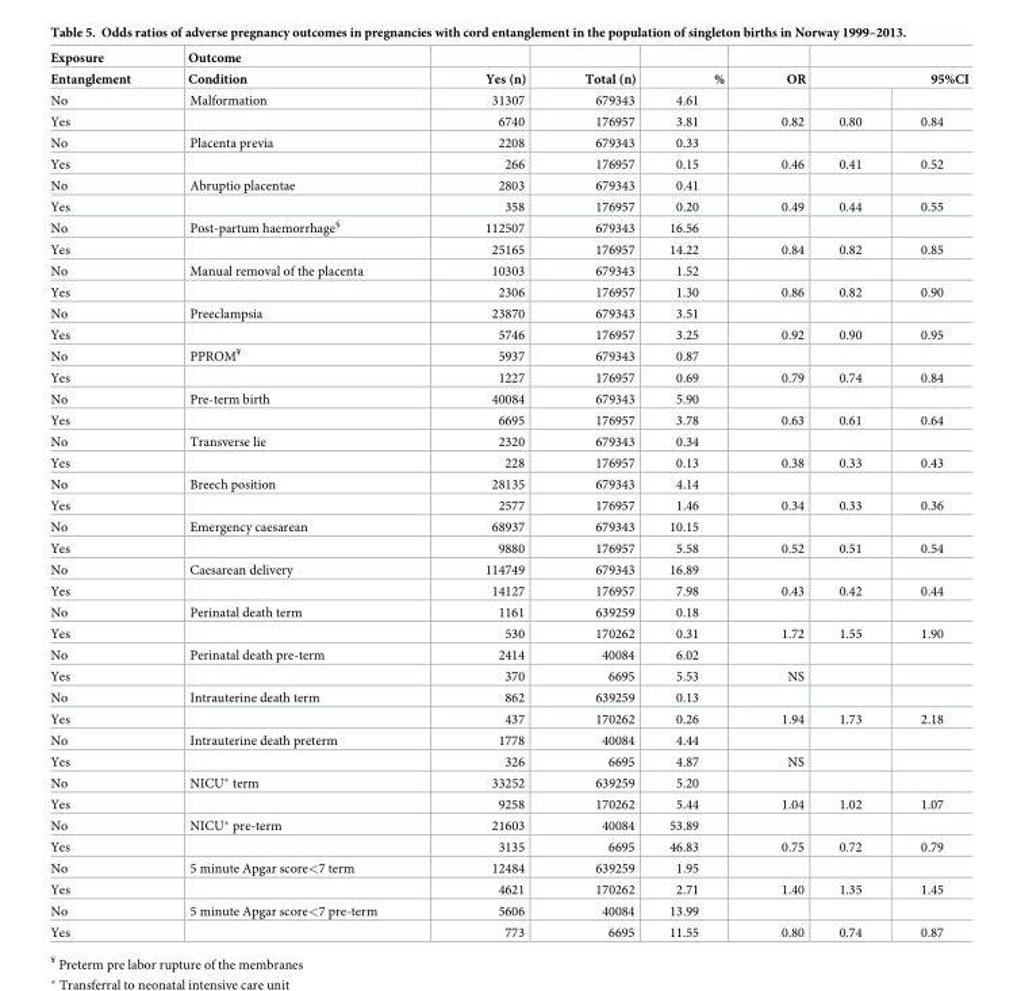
<table><thead><tr><td rowspan="2">Exposure Entanglement</td><td rowspan="2">Outcome Condition</td><td rowspan="2">Yes (n)</td><td rowspan="2">Total (n)</td><td rowspan="2">%</td><td rowspan="2">OR</td><td></td><td></td></tr><tr><td colspan="2">95%CI</td></tr></thead><tbody><tr><td>No</td><td>Malformation</td><td>31307</td><td>679343</td><td>4.61</td><td></td><td></td><td></td></tr><tr><td>Yes</td><td></td><td>6740</td><td>176957</td><td>3.81</td><td>0.82</td><td>0.80</td><td>0.84</td></tr><tr><td>No</td><td>Placenta previa</td><td>2208</td><td>679343</td><td>0.33</td><td></td><td></td><td></td></tr><tr><td>Yes</td><td></td><td>266</td><td>176957</td><td>0.15</td><td>0.46</td><td>0.41</td><td>0.52</td></tr><tr><td>No</td><td>Abruptio placentae</td><td>2803</td><td>679343</td><td>0.41</td><td></td><td></td><td></td></tr><tr><td>Yes</td><td></td><td>358</td><td>176957</td><td>0.20</td><td>0.49</td><td>0.44</td><td>0.55</td></tr><tr><td>No</td><td>Post-partum haemorrhage<sup>§</sup></td><td>112507</td><td>679343</td><td>16.56</td><td></td><td></td><td></td></tr><tr><td>Yes</td><td></td><td>25165</td><td>176957</td><td>14.22</td><td>0.84</td><td>0.82</td><td>0.85</td></tr><tr><td>No</td><td>Manual removal of the placenta</td><td>10303</td><td>679343</td><td>1.52</td><td></td><td></td><td></td></tr><tr><td>Yes</td><td></td><td>2306</td><td>176957</td><td>1.30</td><td>0.86</td><td>0.82</td><td>0.90</td></tr><tr><td>No</td><td>Preeclampsia</td><td>23870</td><td>679343</td><td>3.51</td><td></td><td></td><td></td></tr><tr><td>Yes</td><td></td><td>5746</td><td>176957</td><td>3.25</td><td>0.92</td><td>0.90</td><td>0.95</td></tr><tr><td>No</td><td>PPROM<sup>¥</sup></td><td>5937</td><td>679343</td><td>0.87</td><td></td><td></td><td></td></tr><tr><td>Yes</td><td></td><td>1227</td><td>176957</td><td>0.69</td><td>0.79</td><td>0.74</td><td>0.84</td></tr><tr><td>No</td><td>Pre-term birth</td><td>40084</td><td>679343</td><td>5.90</td><td></td><td></td><td></td></tr><tr><td>Yes</td><td></td><td>6695</td><td>176957</td><td>3.78</td><td>0.63</td><td>0.61</td><td>0.64</td></tr><tr><td>No</td><td>Transverse lie</td><td>2320</td><td>679343</td><td>0.34</td><td></td><td></td><td></td></tr><tr><td>Yes</td><td></td><td>228</td><td>176957</td><td>0.13</td><td>0.38</td><td>0.33</td><td>0.43</td></tr><tr><td>No</td><td>Breech position</td><td>28135</td><td>679343</td><td>4.14</td><td></td><td></td><td></td></tr><tr><td>Yes</td><td></td><td>2577</td><td>176957</td><td>1.46</td><td>0.34</td><td>0.33</td><td>0.36</td></tr><tr><td>No</td><td>Emergency caesarean</td><td>68937</td><td>679343</td><td>10.15</td><td></td><td></td><td></td></tr><tr><td>Yes</td><td></td><td>9880</td><td>176957</td><td>5.58</td><td>0.52</td><td>0.51</td><td>0.54</td></tr><tr><td>No</td><td>Caesarean delivery</td><td>114749</td><td>679343</td><td>16.89</td><td></td><td></td><td></td></tr><tr><td>Yes</td><td></td><td>14127</td><td>176957</td><td>7.98</td><td>0.43</td><td>0.42</td><td>0.44</td></tr><tr><td>No</td><td>Perinatal death term</td><td>1161</td><td>639259</td><td>0.18</td><td></td><td></td><td></td></tr><tr><td>Yes</td><td></td><td>530</td><td>170262</td><td>0.31</td><td>1.72</td><td>1.55</td><td>1.90</td></tr><tr><td>No</td><td>Perinatal death pre-term</td><td>2414</td><td>40084</td><td>6.02</td><td></td><td></td><td></td></tr><tr><td>Yes</td><td></td><td>370</td><td>6695</td><td>5.53</td><td>NS</td><td></td><td></td></tr><tr><td>No</td><td>Intrauterine death term</td><td>862</td><td>639259</td><td>0.13</td><td></td><td></td><td></td></tr><tr><td>Yes</td><td></td><td>437</td><td>170262</td><td>0.26</td><td>1.94</td><td>1.73</td><td>2.18</td></tr><tr><td>No</td><td>Intrauterine death preterm</td><td>1778</td><td>40084</td><td>4.44</td><td></td><td></td><td></td></tr><tr><td>Yes</td><td></td><td>326</td><td>6695</td><td>4.87</td><td>NS</td><td></td><td></td></tr><tr><td>No</td><td>NICU* term</td><td>33252</td><td>639259</td><td>5.20</td><td></td><td></td><td></td></tr><tr><td>Yes</td><td></td><td>9258</td><td>170262</td><td>5.44</td><td>1.04</td><td>1.02</td><td>1.07</td></tr><tr><td>No</td><td>NICU* pre-term</td><td>21603</td><td>40084</td><td>53.89</td><td></td><td></td><td></td></tr><tr><td>Yes</td><td></td><td>3135</td><td>6695</td><td>46.83</td><td>0.75</td><td>0.72</td><td>0.79</td></tr><tr><td>No</td><td>5 minute Apgar score&lt;7 term</td><td>12484</td><td>639259</td><td>1.95</td><td></td><td></td><td></td></tr><tr><td>Yes</td><td></td><td>4621</td><td>170262</td><td>2.71</td><td>1.40</td><td>1.35</td><td>1.45</td></tr><tr><td>No</td><td>5 minute Apgar score&lt;7 pre-term</td><td>5606</td><td>40084</td><td>13.99</td><td></td><td></td><td></td></tr><tr><td>Yes</td><td></td><td>773</td><td>6695</td><td>11.55</td><td>0.80</td><td>0.74</td><td>0.87</td></tr></tbody></table>